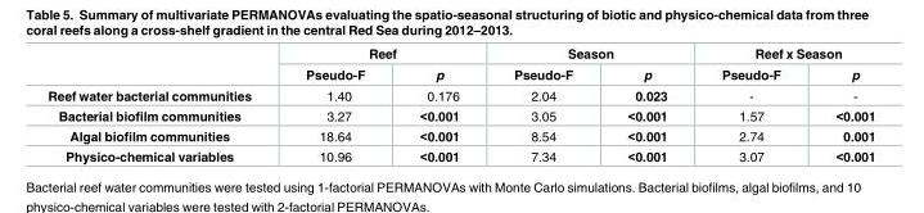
<table><thead><tr><td rowspan="2"></td><td colspan="2">Reef</td><td colspan="2">Season</td><td colspan="2">Reef x Season</td></tr><tr><td>Pseudo-F</td><td>p</td><td>Pseudo-F</td><td>p</td><td>Pseudo-F</td><td>p</td></tr></thead><tbody><tr><td>Reef water bacterial communities</td><td>1.40</td><td>0.176</td><td>2.04</td><td>0.023</td><td>-</td><td>-</td></tr><tr><td>Bacterial biofilm communities</td><td>3.27</td><td>&lt;0.001</td><td>3.05</td><td>&lt;0.001</td><td>1.57</td><td>&lt;0.001</td></tr><tr><td>Algal biofilm communities</td><td>18.64</td><td>&lt;0.001</td><td>8.54</td><td>&lt;0.001</td><td>2.74</td><td>0.001</td></tr><tr><td>Physico-chemical variables</td><td>10.96</td><td>&lt;0.001</td><td>7.34</td><td>&lt;0.001</td><td>3.07</td><td>&lt;0.001</td></tr></tbody></table>